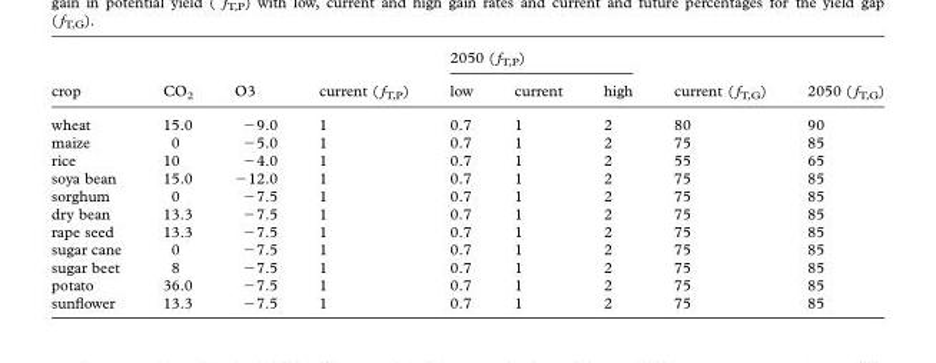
<table><thead><tr><td rowspan="2">crop</td><td rowspan="2">CO<sub>2</sub></td><td rowspan="2">O3</td><td rowspan="2">current ( f<sub>T,P</sub>)</td><td colspan="3">2050 ( f<sub>T,P</sub>)</td><td rowspan="2">current ( f<sub>T,G</sub>)</td><td rowspan="2">2050 ( f<sub>T,G</sub>)</td></tr><tr><td>low</td><td>current</td><td>high</td></tr></thead><tbody><tr><td>wheat</td><td>15.0</td><td>−9.0</td><td>1</td><td>0.7</td><td>1</td><td>2</td><td>80</td><td>90</td></tr><tr><td>maize</td><td>0</td><td>−5.0</td><td>1</td><td>0.7</td><td>1</td><td>2</td><td>75</td><td>85</td></tr><tr><td>rice</td><td>10</td><td>−4.0</td><td>1</td><td>0.7</td><td>1</td><td>2</td><td>55</td><td>65</td></tr><tr><td>soya bean</td><td>15.0</td><td>−12.0</td><td>1</td><td>0.7</td><td>1</td><td>2</td><td>75</td><td>85</td></tr><tr><td>sorghum</td><td>0</td><td>−7.5</td><td>1</td><td>0.7</td><td>1</td><td>2</td><td>75</td><td>85</td></tr><tr><td>dry bean</td><td>13.3</td><td>−7.5</td><td>1</td><td>0.7</td><td>1</td><td>2</td><td>75</td><td>85</td></tr><tr><td>rape seed</td><td>13.3</td><td>−7.5</td><td>1</td><td>0.7</td><td>1</td><td>2</td><td>75</td><td>85</td></tr><tr><td>sugar cane</td><td>0</td><td>−7.5</td><td>1</td><td>0.7</td><td>1</td><td>2</td><td>75</td><td>85</td></tr><tr><td>sugar beet</td><td>8</td><td>−7.5</td><td>1</td><td>0.7</td><td>1</td><td>2</td><td>75</td><td>85</td></tr><tr><td>potato</td><td>36.0</td><td>−7.5</td><td>1</td><td>0.7</td><td>1</td><td>2</td><td>75</td><td>85</td></tr><tr><td>sunflower</td><td>13.3</td><td>−7.5</td><td>1</td><td>0.7</td><td>1</td><td>2</td><td>75</td><td>85</td></tr></tbody></table>